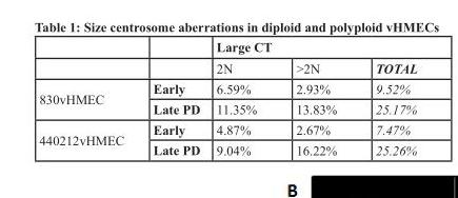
<table><thead><tr><td rowspan="2"></td><td rowspan="2"></td><td colspan="3">Large CT</td></tr><tr><td>2N</td><td>&gt;2N</td><td>TOTAL</td></tr></thead><tbody><tr><td rowspan="2">830vHMEC</td><td>Early</td><td>6.59%</td><td>2.93%</td><td>9.52%</td></tr><tr><td>Late PD</td><td>11.35%</td><td>13.83%</td><td>25.17%</td></tr><tr><td rowspan="2">440212vHMEC</td><td>Early</td><td>4.87%</td><td>2.67%</td><td>7.47%</td></tr><tr><td>Late PD</td><td>9.04%</td><td>16.22%</td><td>25.26%</td></tr></tbody></table>